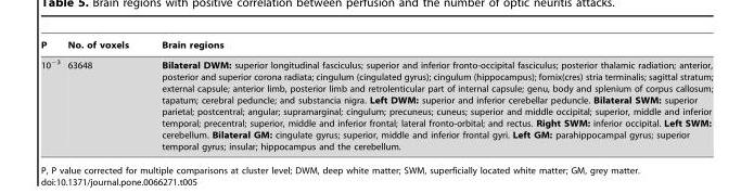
<table><thead><tr><td>P</td><td>No. of voxels</td><td>Brain regions</td></tr></thead><tbody><tr><td>10<sup>−3</sup></td><td>63648</td><td>Bilateral DWM: superior longitudinal fasciculus; superior and inferior fronto-occipital fasciculus; posterior thalamic radiation; anterior, posterior and superior corona radiata; cingulum (cingulated gyrus); cingulum (hippocampus); fornix(cres) stria terminalis; sagittal stratum; external capsule; anterior limb, posterior limb and retrolenticular part of internal capsule; genu, body and splenium of corpus callosum; tapatum; cerebral peduncle; and substancia nigra. Left DWM: superior and inferior cerebellar peduncle. Bilateral SWM: superior parietal; postcentral; angular; supramarginal; cingulum; precuneus; cuneus; superior and middle occipital; superior, middle and inferior temporal; precentral; superior, middle and inferior frontal; lateral fronto-orbital; and rectus. Right SWM: inferior occipital. Left SWM: cerebellum. Bilateral GM: cingulate gyrus; superior, middle and inferior frontal gyri. Left GM: parahippocampal gyrus; superior temporal gyrus; insular; hippocampus and the cerebellum.</td></tr></tbody></table>